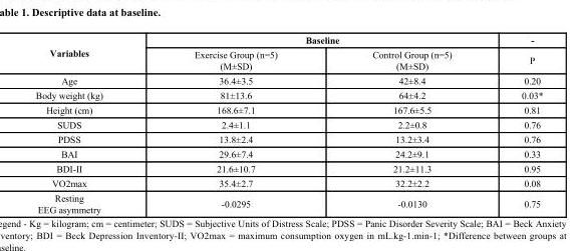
<table><thead><tr><td rowspan="2">Variables</td><td colspan="2">Baseline</td><td rowspan="2">- P</td></tr><tr><td>Exercise Group (n=5) (M±SD)</td><td>Control Group (n=5) (M±SD)</td></tr></thead><tbody><tr><td>Age</td><td>36.4±3.5</td><td>42±8.4</td><td>0.20</td></tr><tr><td>Body weight (kg)</td><td>81±13.6</td><td>64±4.2</td><td>0.03*</td></tr><tr><td>Height (cm)</td><td>168.6±7.1</td><td>167.6±5.5</td><td>0.81</td></tr><tr><td>SUDS</td><td>2.4±1.1</td><td>2.2±0.8</td><td>0.76</td></tr><tr><td>PDSS</td><td>13.8±2.4</td><td>13.2±3.4</td><td>0.76</td></tr><tr><td>BAI</td><td>29.6±7.4</td><td>24.2±9.1</td><td>0.33</td></tr><tr><td>BDI-II</td><td>21.6±10.7</td><td>21.2±11.3</td><td>0.95</td></tr><tr><td>VO2max</td><td>35.4±2.7</td><td>32.2±2.2</td><td>0.08</td></tr><tr><td>Resting EEG asymmetry</td><td>-0.0295</td><td>-0.0130</td><td>0.75</td></tr></tbody></table>